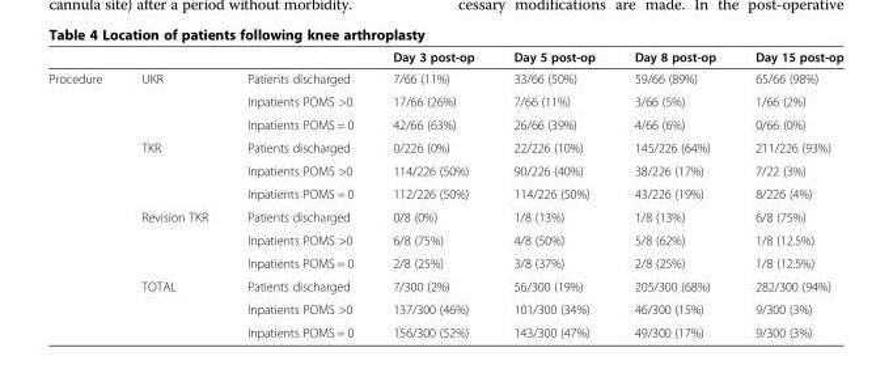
<table><thead><tr><td></td><td></td><td></td><td>Day 3 post-op</td><td>Day 5 post-op</td><td>Day 8 post-op</td><td>Day 15 post-op</td></tr></thead><tbody><tr><td rowspan="12">Procedure</td><td rowspan="3">UKR</td><td>Patients discharged</td><td>7/66 (11%)</td><td>33/66 (50%)</td><td>59/66 (89%)</td><td>65/66 (98%)</td></tr><tr><td>Inpatients POMS &gt;0</td><td>17/66 (26%)</td><td>7/66 (11%)</td><td>3/66 (5%)</td><td>1/66 (2%)</td></tr><tr><td>Inpatients POMS = 0</td><td>42/66 (63%)</td><td>26/66 (39%)</td><td>4/66 (6%)</td><td>0/66 (0%)</td></tr><tr><td rowspan="3">TKR</td><td>Patients discharged</td><td>0/226 (0%)</td><td>22/226 (10%)</td><td>145/226 (64%)</td><td>211/226 (93%)</td></tr><tr><td>Inpatients POMS &gt;0</td><td>114/226 (50%)</td><td>90/226 (40%)</td><td>38/226 (17%)</td><td>7/22 (3%)</td></tr><tr><td>Inpatients POMS = 0</td><td>112/226 (50%)</td><td>114/226 (50%)</td><td>43/226 (19%)</td><td>8/226 (4%)</td></tr><tr><td rowspan="3">Revision TKR</td><td>Patients discharged</td><td>0/8 (0%)</td><td>1/8 (13%)</td><td>1/8 (13%)</td><td>6/8 (75%)</td></tr><tr><td>Inpatients POMS &gt;0</td><td>6/8 (75%)</td><td>4/8 (50%)</td><td>5/8 (62%)</td><td>1/8 (12.5%)</td></tr><tr><td>Inpatients POMS = 0</td><td>2/8 (25%)</td><td>3/8 (37%)</td><td>2/8 (25%)</td><td>1/8 (12.5%)</td></tr><tr><td rowspan="3">TOTAL</td><td>Patients discharged</td><td>7/300 (2%)</td><td>56/300 (19%)</td><td>205/300 (68%)</td><td>282/300 (94%)</td></tr><tr><td>Inpatients POMS &gt;0</td><td>137/300 (46%)</td><td>101/300 (34%)</td><td>46/300 (15%)</td><td>9/300 (3%)</td></tr><tr><td>Inpatients POMS = 0</td><td>156/300 (52%)</td><td>143/300 (47%)</td><td>49/300 (17%)</td><td>9/300 (3%)</td></tr></tbody></table>